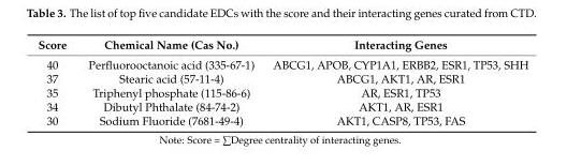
<table><thead><tr><td>Score</td><td>Chemical Name (Cas No.)</td><td>Interacting Genes</td></tr></thead><tbody><tr><td>40</td><td>Perfluorooctanoic acid (335-67-1)</td><td>ABCG1, APOB, CYP1A1, ERBB2, ESR1, TP53, SHH</td></tr><tr><td>37</td><td>Stearic acid (57-11-4)</td><td>ABCG1, AKT1, AR, ESR1</td></tr><tr><td>35</td><td>Triphenyl phosphate (115-86-6)</td><td>AR, ESR1, TP53</td></tr><tr><td>34</td><td>Dibutyl Phthalate (84-74-2)</td><td>AKT1, AR, ESR1</td></tr><tr><td>30</td><td>Sodium Fluoride (7681-49-4)</td><td>AKT1, CASP8, TP53, FAS</td></tr></tbody></table>